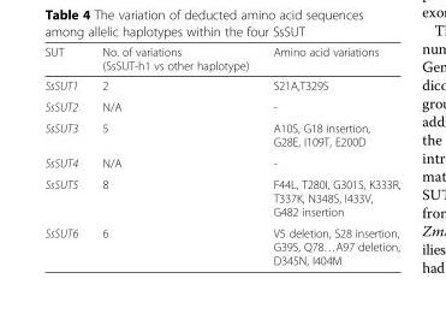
<table><thead><tr><td>SUT</td><td>No. of variations (SsSUT-h1 vs other haplotype)</td><td>Amino acid variations</td></tr></thead><tbody><tr><td>SsSUT1</td><td>2</td><td>S21A,T329S</td></tr><tr><td>SsSUT2</td><td>N/A</td><td>-</td></tr><tr><td>SsSUT3</td><td>5</td><td>A10S, G18 insertion, G28E, I109T, E200D</td></tr><tr><td>SsSUT4</td><td>N/A</td><td>-</td></tr><tr><td>SsSUT5</td><td>8</td><td>F44L, T280I, G301S, K333R, T337K, N348S, I433V, G482 insertion</td></tr><tr><td>SsSUT6</td><td>6</td><td>V5 deletion, S28 insertion, G39S, Q78…A97 deletion, D345N, I404M</td></tr></tbody></table>